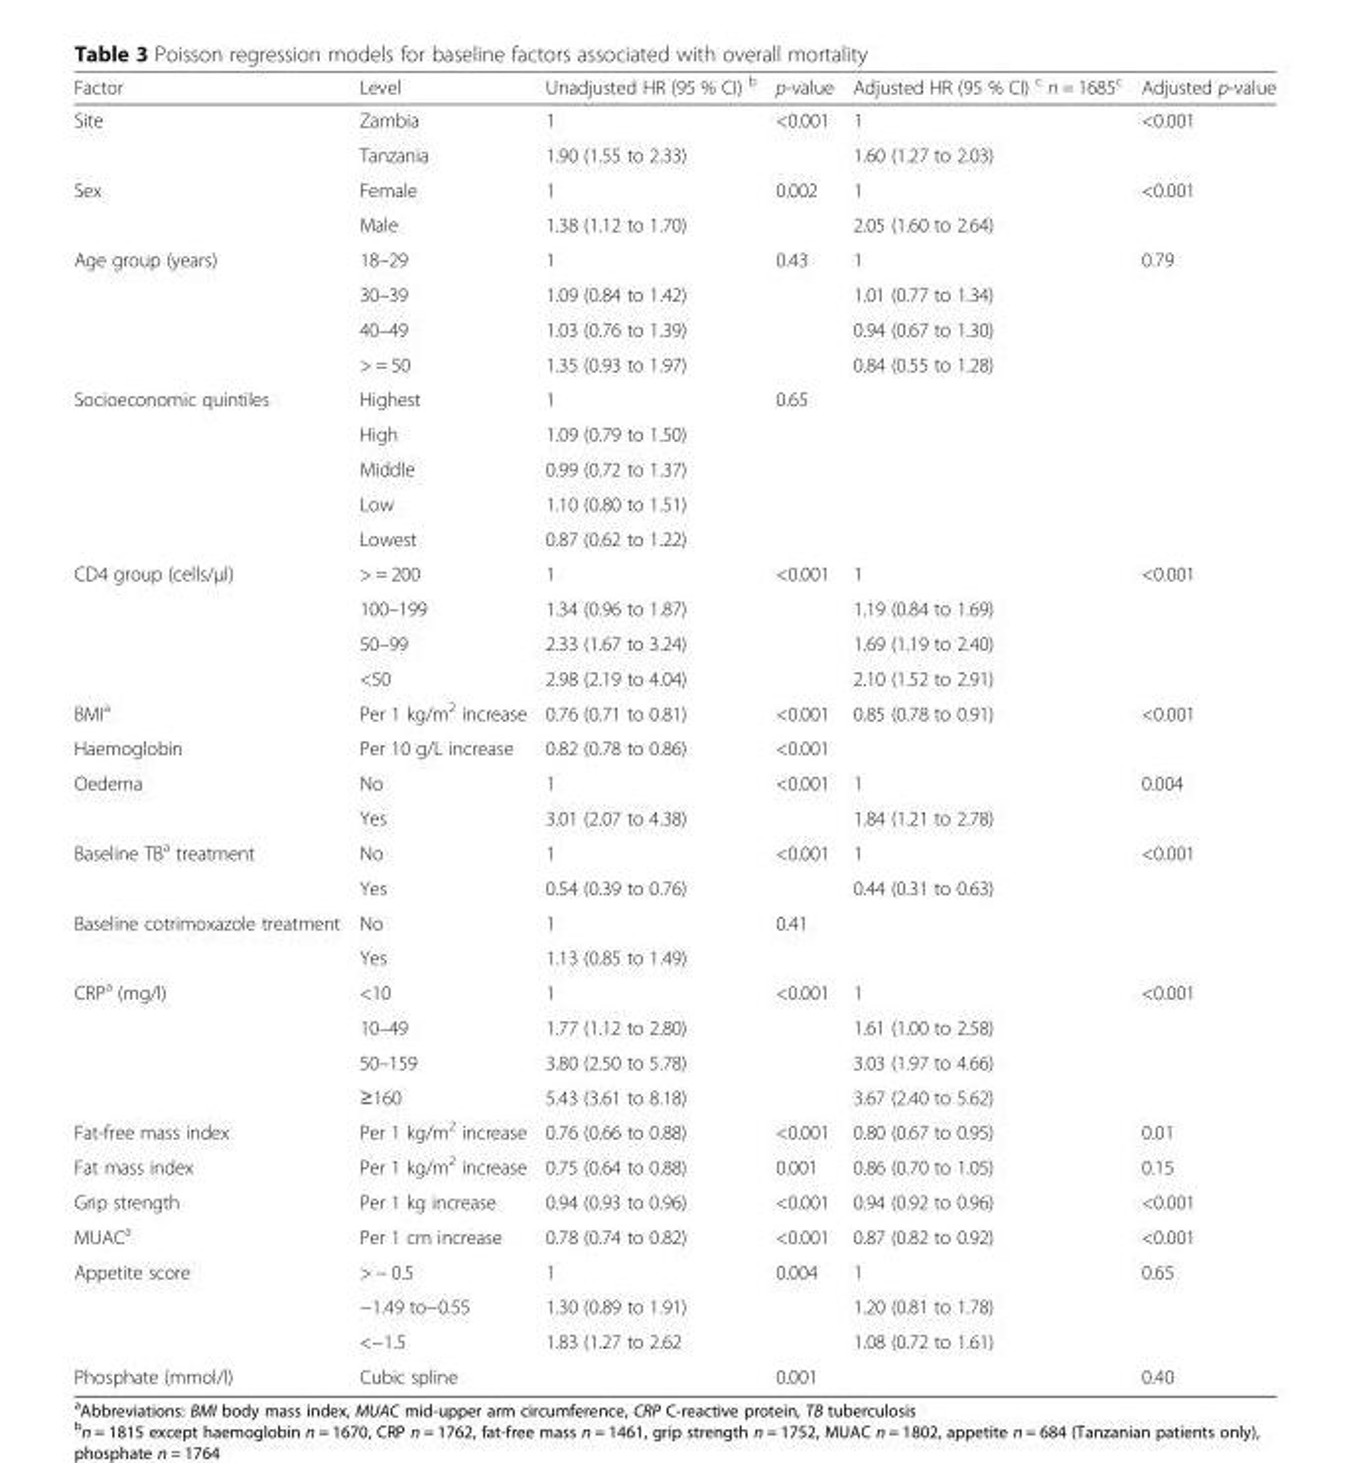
<table><thead><tr><td>Factor</td><td>Level</td><td>Unadjusted HR (95 % CI) <sup>b</sup></td><td>p-value</td><td>Adjusted HR (95 % CI) <sup>c</sup> n = 1685<sup>c</sup></td><td>Adjusted p-value</td></tr></thead><tbody><tr><td rowspan="2">Site</td><td>Zambia</td><td>1</td><td>&lt;0.001</td><td>1</td><td>&lt;0.001</td></tr><tr><td>Tanzania</td><td>1.90 (1.55 to 2.33)</td><td></td><td>1.60 (1.27 to 2.03)</td><td></td></tr><tr><td rowspan="2">Sex</td><td>Female</td><td>1</td><td>0.002</td><td>1</td><td>&lt;0.001</td></tr><tr><td>Male</td><td>1.38 (1.12 to 1.70)</td><td></td><td>2.05 (1.60 to 2.64)</td><td></td></tr><tr><td rowspan="4">Age group (years)</td><td>18–29</td><td>1</td><td>0.43</td><td>1</td><td>0.79</td></tr><tr><td>30–39</td><td>1.09 (0.84 to 1.42)</td><td></td><td>1.01 (0.77 to 1.34)</td><td></td></tr><tr><td>40–49</td><td>1.03 (0.76 to 1.39)</td><td></td><td>0.94 (0.67 to 1.30)</td><td></td></tr><tr><td>&gt; = 50</td><td>1.35 (0.93 to 1.97)</td><td></td><td>0.84 (0.55 to 1.28)</td><td></td></tr><tr><td rowspan="5">Socioeconomic quintiles</td><td>Highest</td><td>1</td><td>0.65</td><td></td><td></td></tr><tr><td>High</td><td>1.09 (0.79 to 1.50)</td><td></td><td></td><td></td></tr><tr><td>Middle</td><td>0.99 (0.72 to 1.37)</td><td></td><td></td><td></td></tr><tr><td>Low</td><td>1.10 (0.80 to 1.51)</td><td></td><td></td><td></td></tr><tr><td>Lowest</td><td>0.87 (0.62 to 1.22)</td><td></td><td></td><td></td></tr><tr><td rowspan="4">CD4 group (cells/μl)</td><td>&gt; = 200</td><td>1</td><td>&lt;0.001</td><td>1</td><td>&lt;0.001</td></tr><tr><td>100–199</td><td>1.34 (0.96 to 1.87)</td><td></td><td>1.19 (0.84 to 1.69)</td><td></td></tr><tr><td>50–99</td><td>2.33 (1.67 to 3.24)</td><td></td><td>1.69 (1.19 to 2.40)</td><td></td></tr><tr><td>&lt;50</td><td>2.98 (2.19 to 4.04)</td><td></td><td>2.10 (1.52 to 2.91)</td><td></td></tr><tr><td>BMI<sup>a</sup></td><td>Per 1 kg/m<sup>2</sup> increase</td><td>0.76 (0.71 to 0.81)</td><td>&lt;0.001</td><td>0.85 (0.78 to 0.91)</td><td>&lt;0.001</td></tr><tr><td>Haemoglobin</td><td>Per 10 g/L increase</td><td>0.82 (0.78 to 0.86)</td><td>&lt;0.001</td><td></td><td></td></tr><tr><td rowspan="2">Oedema</td><td>No</td><td>1</td><td>&lt;0.001</td><td>1</td><td>0.004</td></tr><tr><td>Yes</td><td>3.01 (2.07 to 4.38)</td><td></td><td>1.84 (1.21 to 2.78)</td><td></td></tr><tr><td rowspan="2">Baseline TB<sup>a</sup> treatment</td><td>No</td><td>1</td><td>&lt;0.001</td><td>1</td><td>&lt;0.001</td></tr><tr><td>Yes</td><td>0.54 (0.39 to 0.76)</td><td></td><td>0.44 (0.31 to 0.63)</td><td></td></tr><tr><td rowspan="2">Baseline cotrimoxazole treatment</td><td>No</td><td>1</td><td>0.41</td><td></td><td></td></tr><tr><td>Yes</td><td>1.13 (0.85 to 1.49)</td><td></td><td></td><td></td></tr><tr><td rowspan="4">CRP<sup>a</sup> (mg/l)</td><td>&lt;10</td><td>1</td><td>&lt;0.001</td><td>1</td><td>&lt;0.001</td></tr><tr><td>10–49</td><td>1.77 (1.12 to 2.80)</td><td></td><td>1.61 (1.00 to 2.58)</td><td></td></tr><tr><td>50–159</td><td>3.80 (2.50 to 5.78)</td><td></td><td>3.03 (1.97 to 4.66)</td><td></td></tr><tr><td>≥160</td><td>5.43 (3.61 to 8.18)</td><td></td><td>3.67 (2.40 to 5.62)</td><td></td></tr><tr><td>Fat-free mass index</td><td>Per 1 kg/m<sup>2</sup> increase</td><td>0.76 (0.66 to 0.88)</td><td>&lt;0.001</td><td>0.80 (0.67 to 0.95)</td><td>0.01</td></tr><tr><td>Fat mass index</td><td>Per 1 kg/m<sup>2</sup> increase</td><td>0.75 (0.64 to 0.88)</td><td>0.001</td><td>0.86 (0.70 to 1.05)</td><td>0.15</td></tr><tr><td>Grip strength</td><td>Per 1 kg increase</td><td>0.94 (0.93 to 0.96)</td><td>&lt;0.001</td><td>0.94 (0.92 to 0.96)</td><td>&lt;0.001</td></tr><tr><td>MUAC<sup>a</sup></td><td>Per 1 cm increase</td><td>0.78 (0.74 to 0.82)</td><td>&lt;0.001</td><td>0.87 (0.82 to 0.92)</td><td>&lt;0.001</td></tr><tr><td rowspan="3">Appetite score</td><td>&gt; − 0.5</td><td>1</td><td>0.004</td><td>1</td><td>0.65</td></tr><tr><td>−1.49 to−0.55</td><td>1.30 (0.89 to 1.91)</td><td></td><td>1.20 (0.81 to 1.78)</td><td></td></tr><tr><td>&lt;−1.5</td><td>1.83 (1.27 to 2.62</td><td></td><td>1.08 (0.72 to 1.61)</td><td></td></tr><tr><td>Phosphate (mmol/l)</td><td>Cubic spline</td><td></td><td>0.001</td><td></td><td>0.40</td></tr></tbody></table>